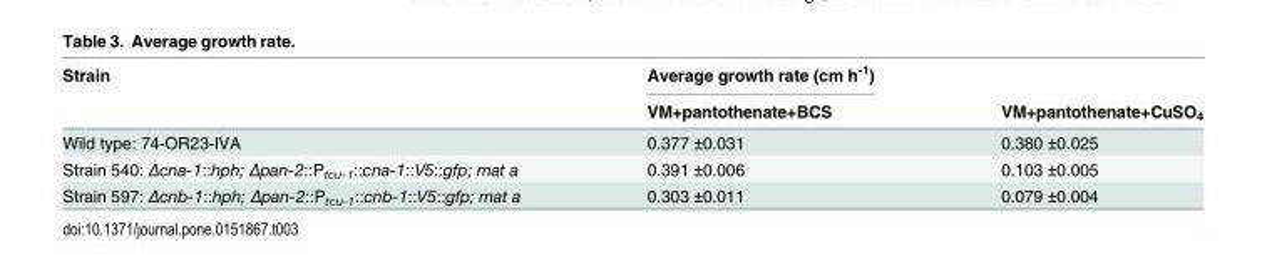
<table><thead><tr><td rowspan="2">Strain</td><td rowspan="2">Average growth rate (cm h<sup>-1</sup>) VM+pantothenate+BCS</td><td rowspan="2">VM+pantothenate+CuSO<sub>4</sub></td></tr><tr></tr></thead><tbody><tr><td>Wild type: 74-OR23-IVA</td><td>0.377 ±0.031</td><td>0.380 ±0.025</td></tr><tr><td>Strain 540: Δcna-1::hph; Δpan-2::Ptcu-1::cna-1::V5::gfp; mat a</td><td>0.391 ±0.006</td><td>0.103 ±0.005</td></tr><tr><td>Strain 597: Δcnb-1::hph; Δpan-2::Ptcu-1::cnb-1::V5::gfp; mat a</td><td>0.303 ±0.011</td><td>0.079 ±0.004</td></tr></tbody></table>